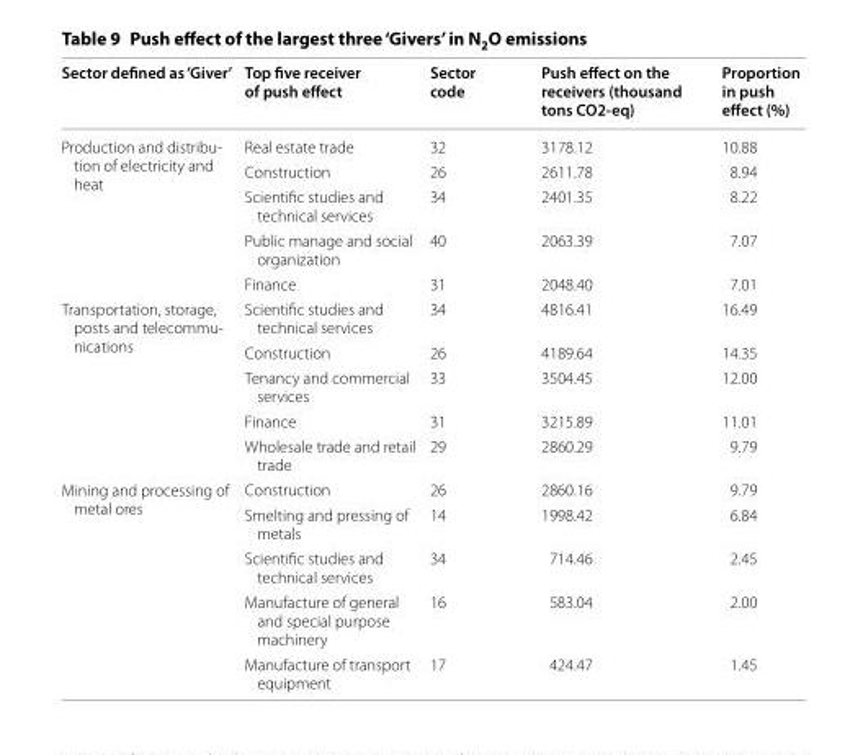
<table><thead><tr><td>Sector defined as ‘Giver’</td><td>Top five receiver of push effect</td><td>Sector code</td><td>Push effect on the receivers (thousand tons CO2-eq)</td><td>Proportion in push effect (%)</td></tr></thead><tbody><tr><td rowspan="5">Production and distribu- tion of electricity and heat</td><td>Real estate trade</td><td>32</td><td>3178.12</td><td>10.88</td></tr><tr><td>Construction</td><td>26</td><td>2611.78</td><td>8.94</td></tr><tr><td>Scientific studies and technical services</td><td>34</td><td>2401.35</td><td>8.22</td></tr><tr><td>Public manage and social organization</td><td>40</td><td>2063.39</td><td>7.07</td></tr><tr><td>Finance</td><td>31</td><td>2048.40</td><td>7.01</td></tr><tr><td rowspan="5">Transportation, storage, posts and telecommu- nications</td><td>Scientific studies and technical services</td><td>34</td><td>4816.41</td><td>16.49</td></tr><tr><td>Construction</td><td>26</td><td>4189.64</td><td>14.35</td></tr><tr><td>Tenancy and commercial services</td><td>33</td><td>3504.45</td><td>12.00</td></tr><tr><td>Finance</td><td>31</td><td>3215.89</td><td>11.01</td></tr><tr><td>Wholesale trade and retail trade</td><td>29</td><td>2860.29</td><td>9.79</td></tr><tr><td rowspan="5">Mining and processing of metal ores</td><td>Construction</td><td>26</td><td>2860.16</td><td>9.79</td></tr><tr><td>Smelting and pressing of metals</td><td>14</td><td>1998.42</td><td>6.84</td></tr><tr><td>Scientific studies and technical services</td><td>34</td><td>714.46</td><td>2.45</td></tr><tr><td>Manufacture of general and special purpose machinery</td><td>16</td><td>583.04</td><td>2.00</td></tr><tr><td>Manufacture of transport equipment</td><td>17</td><td>424.47</td><td>1.45</td></tr></tbody></table>